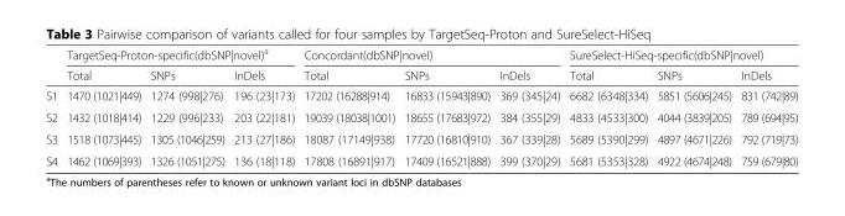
<table><thead><tr><td rowspan="2"></td><td colspan="3">TargetSeq-Proton-specific(dbSNP|novel)<sup>a</sup></td><td colspan="3">Concordant(dbSNP|novel)</td><td colspan="3">SureSelect-HiSeq-specific(dbSNP|novel)</td></tr><tr><td>Total</td><td>SNPs</td><td>InDels</td><td>Total</td><td>SNPs</td><td>InDels</td><td>Total</td><td>SNPs</td><td>InDels</td></tr></thead><tbody><tr><td>S1</td><td>1470 (1021|449)</td><td>1274 (998|276)</td><td>196 (23|173)</td><td>17202 (16288|914)</td><td>16833 (15943|890)</td><td>369 (345|24)</td><td>6682 (6348|334)</td><td>5851 (5606|245)</td><td>831 (742|89)</td></tr><tr><td>S2</td><td>1432 (1018|414)</td><td>1229 (996|233)</td><td>203 (22|181)</td><td>19039 (18038|1001)</td><td>18655 (17683|972)</td><td>384 (355|29)</td><td>4833 (4533|300)</td><td>4044 (3839|205)</td><td>789 (694|95)</td></tr><tr><td>S3</td><td>1518 (1073|445)</td><td>1305 (1046|259)</td><td>213 (27|186)</td><td>18087 (17149|938)</td><td>17720 (16810|910)</td><td>367 (339|28)</td><td>5689 (5390|299)</td><td>4897 (4671|226)</td><td>792 (719|73)</td></tr><tr><td>S4</td><td>1462 (1069|393)</td><td>1326 (1051|275)</td><td>136 (18|118)</td><td>17808 (16891|917)</td><td>17409 (16521|888)</td><td>399 (370|29)</td><td>5681 (5353|328)</td><td>4922 (4674|248)</td><td>759 (679|80)</td></tr></tbody></table>